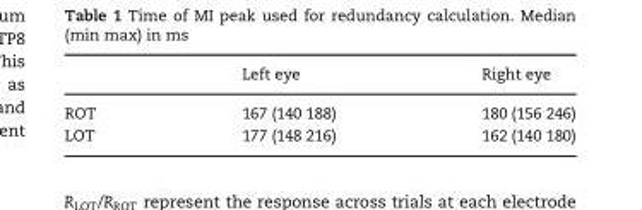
<table><thead><tr><td></td><td>Left eye</td><td>Right eye</td></tr></thead><tbody><tr><td>ROT</td><td>167 (140 188)</td><td>180 (156 246)</td></tr><tr><td>LOT</td><td>177 (148 216)</td><td>162 (140 180)</td></tr></tbody></table>